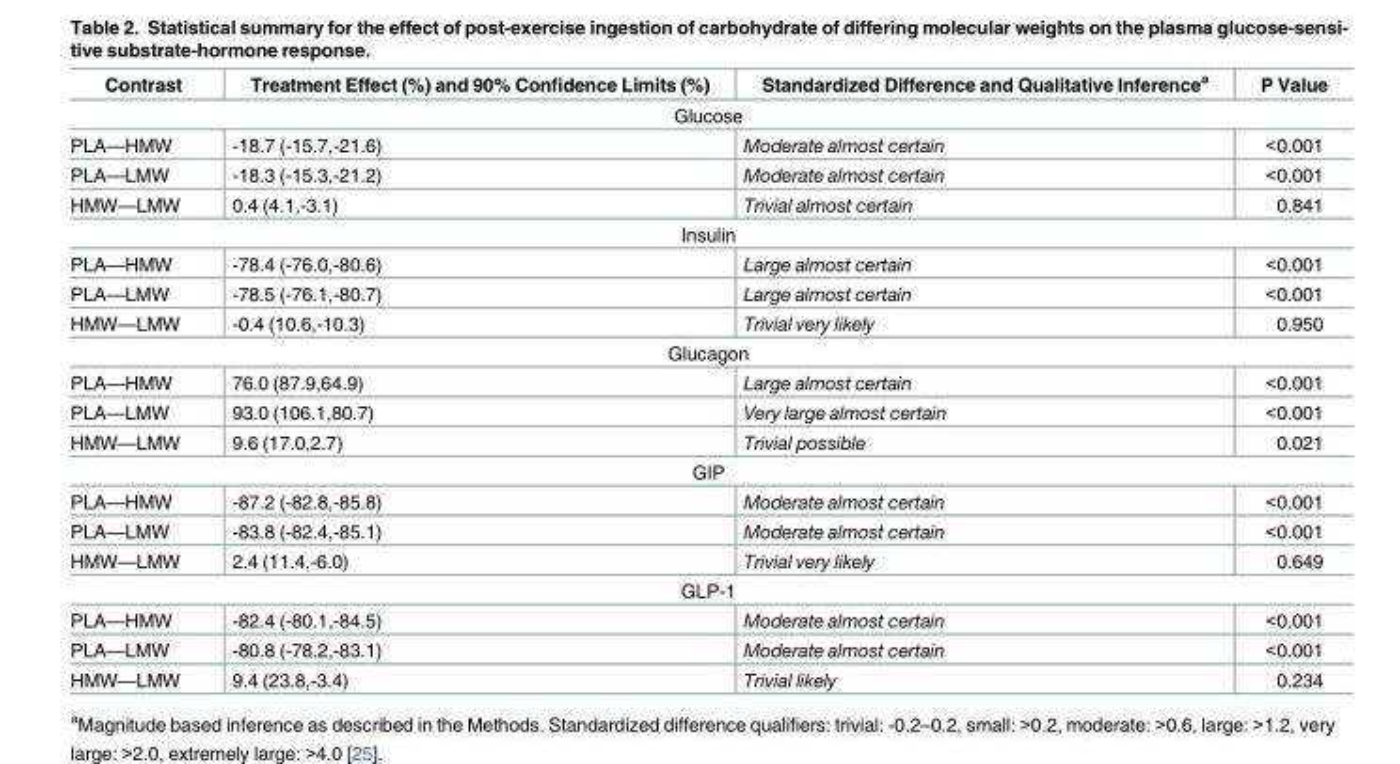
<table><thead><tr><td>Contrast</td><td>Treatment Effect (%) and 90% Confidence Limits (%)</td><td>Standardized Difference and Qualitative Inference<sup>a</sup></td><td>P Value</td></tr></thead><tbody><tr><td colspan="4">Glucose</td></tr><tr><td>PLA—HMW</td><td>-18.7 (-15.7,-21.6)</td><td>Moderate almost certain</td><td>&lt;0.001</td></tr><tr><td>PLA—LMW</td><td>-18.3 (-15.3,-21.2)</td><td>Moderate almost certain</td><td>&lt;0.001</td></tr><tr><td>HMW—LMW</td><td>0.4 (4.1,-3.1)</td><td>Trivial almost certain</td><td>0.841</td></tr><tr><td colspan="4">Insulin</td></tr><tr><td>PLA—HMW</td><td>-78.4 (-76.0,-80.6)</td><td>Large almost certain</td><td>&lt;0.001</td></tr><tr><td>PLA—LMW</td><td>-78.5 (-76.1,-80.7)</td><td>Large almost certain</td><td>&lt;0.001</td></tr><tr><td>HMW—LMW</td><td>-0.4 (10.6,-10.3)</td><td>Trivial very likely</td><td>0.950</td></tr><tr><td colspan="4">Glucagon</td></tr><tr><td>PLA—HMW</td><td>76.0 (87.9,64.9)</td><td>Large almost certain</td><td>&lt;0.001</td></tr><tr><td>PLA—LMW</td><td>93.0 (106.1,80.7)</td><td>Very large almost certain</td><td>&lt;0.001</td></tr><tr><td>HMW—LMW</td><td>9.6 (17.0,2.7)</td><td>Trivial possible</td><td>0.021</td></tr><tr><td colspan="4">GIP</td></tr><tr><td>PLA—HMW</td><td>-87.2 (-82.8,-85.8)</td><td>Moderate almost certain</td><td>&lt;0.001</td></tr><tr><td>PLA—LMW</td><td>-83.8 (-82.4,-85.1)</td><td>Moderate almost certain</td><td>&lt;0.001</td></tr><tr><td>HMW—LMW</td><td>2.4 (11.4,-6.0)</td><td>Trivial very likely</td><td>0.649</td></tr><tr><td colspan="4">GLP-1</td></tr><tr><td>PLA—HMW</td><td>-82.4 (-80.1,-84.5)</td><td>Moderate almost certain</td><td>&lt;0.001</td></tr><tr><td>PLA—LMW</td><td>-80.8 (-78.2,-83.1)</td><td>Moderate almost certain</td><td>&lt;0.001</td></tr><tr><td>HMW—LMW</td><td>9.4 (23.8,-3.4)</td><td>Trivial likely</td><td>0.234</td></tr></tbody></table>